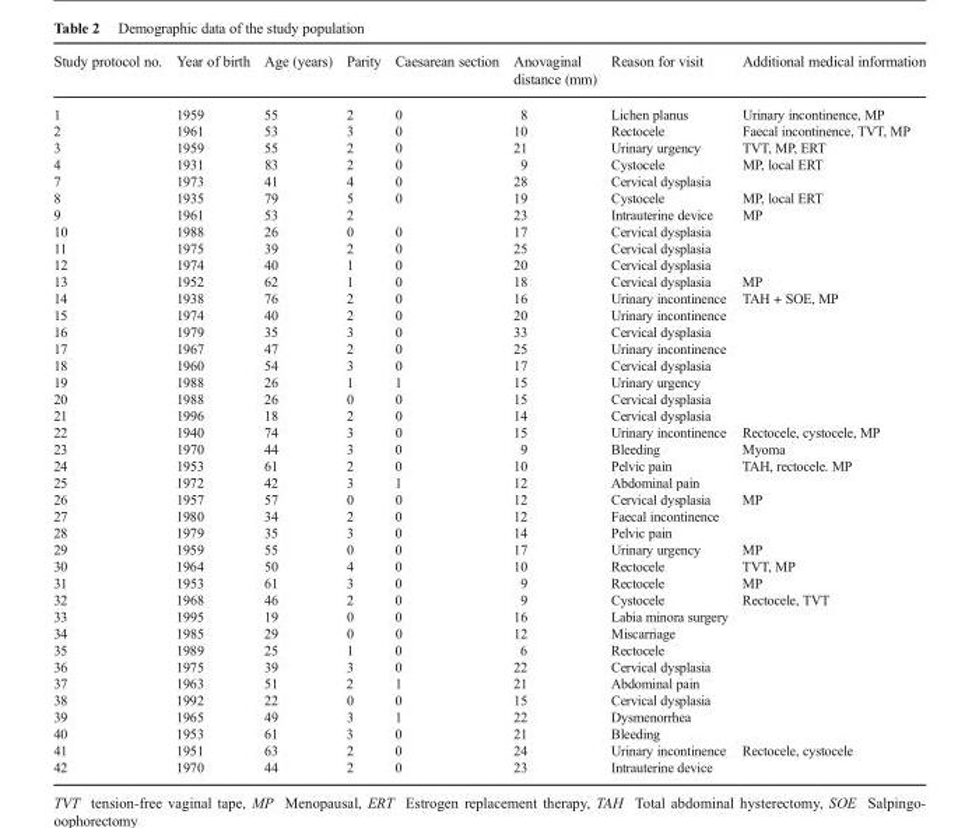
<table><thead><tr><td>Study protocol no.</td><td>Year of birth</td><td>Age (years)</td><td>Parity</td><td>Caesarean section</td><td>Anovaginal distance (mm)</td><td>Reason for visit</td><td>Additional medical information</td></tr></thead><tbody><tr><td>1</td><td>1959</td><td>55</td><td>2</td><td>0</td><td>8</td><td>Lichen planus</td><td>Urinary incontinence, MP</td></tr><tr><td>2</td><td>1961</td><td>53</td><td>3</td><td>0</td><td>10</td><td>Rectocele</td><td>Faecal incontinence, TVT, MP</td></tr><tr><td>3</td><td>1959</td><td>55</td><td>2</td><td>0</td><td>21</td><td>Urinary urgency</td><td>TVT, MP, ERT</td></tr><tr><td>4</td><td>1931</td><td>83</td><td>2</td><td>0</td><td>9</td><td>Cystocele</td><td>MP, local ERT</td></tr><tr><td>7</td><td>1973</td><td>41</td><td>4</td><td>0</td><td>28</td><td>Cervical dysplasia</td><td></td></tr><tr><td>8</td><td>1935</td><td>79</td><td>5</td><td>0</td><td>19</td><td>Cystocele</td><td>MP, local ERT</td></tr><tr><td>9</td><td>1961</td><td>53</td><td>2</td><td></td><td>23</td><td>Intrauterine device</td><td>MP</td></tr><tr><td>10</td><td>1988</td><td>26</td><td>0</td><td>0</td><td>17</td><td>Cervical dysplasia</td><td></td></tr><tr><td>11</td><td>1975</td><td>39</td><td>2</td><td>0</td><td>25</td><td>Cervical dysplasia</td><td></td></tr><tr><td>12</td><td>1974</td><td>40</td><td>1</td><td>0</td><td>20</td><td>Cervical dysplasia</td><td></td></tr><tr><td>13</td><td>1952</td><td>62</td><td>1</td><td>0</td><td>18</td><td>Cervical dysplasia</td><td>MP</td></tr><tr><td>14</td><td>1938</td><td>76</td><td>2</td><td>0</td><td>16</td><td>Urinary incontinence</td><td>TAH + SOE, MP</td></tr><tr><td>15</td><td>1974</td><td>40</td><td>2</td><td>0</td><td>20</td><td>Urinary incontinence</td><td></td></tr><tr><td>16</td><td>1979</td><td>35</td><td>3</td><td>0</td><td>33</td><td>Cervical dysplasia</td><td></td></tr><tr><td>17</td><td>1967</td><td>47</td><td>2</td><td>0</td><td>25</td><td>Urinary incontinence</td><td></td></tr><tr><td>18</td><td>1960</td><td>54</td><td>3</td><td>0</td><td>17</td><td>Cervical dysplasia</td><td></td></tr><tr><td>19</td><td>1988</td><td>26</td><td>1</td><td>1</td><td>15</td><td>Urinary urgency</td><td></td></tr><tr><td>20</td><td>1988</td><td>26</td><td>0</td><td>0</td><td>15</td><td>Cervical dysplasia</td><td></td></tr><tr><td>21</td><td>1996</td><td>18</td><td>2</td><td>0</td><td>14</td><td>Cervical dysplasia</td><td></td></tr><tr><td>22</td><td>1940</td><td>74</td><td>3</td><td>0</td><td>15</td><td>Urinary incontinence</td><td>Rectocele, cystocele, MP</td></tr><tr><td>23</td><td>1970</td><td>44</td><td>3</td><td>0</td><td>9</td><td>Bleeding</td><td>Myoma</td></tr><tr><td>24</td><td>1953</td><td>61</td><td>2</td><td>0</td><td>10</td><td>Pelvic pain</td><td>TAH, rectocele. MP</td></tr><tr><td>25</td><td>1972</td><td>42</td><td>3</td><td>1</td><td>12</td><td>Abdominal pain</td><td></td></tr><tr><td>26</td><td>1957</td><td>57</td><td>0</td><td>0</td><td>12</td><td>Cervical dysplasia</td><td>MP</td></tr><tr><td>27</td><td>1980</td><td>34</td><td>2</td><td>0</td><td>12</td><td>Faecal incontinence</td><td></td></tr><tr><td>28</td><td>1979</td><td>35</td><td>3</td><td>0</td><td>14</td><td>Pelvic pain</td><td></td></tr><tr><td>29</td><td>1959</td><td>55</td><td>0</td><td>0</td><td>17</td><td>Urinary urgency</td><td>MP</td></tr><tr><td>30</td><td>1964</td><td>50</td><td>4</td><td>0</td><td>10</td><td>Rectocele</td><td>TVT, MP</td></tr><tr><td>31</td><td>1953</td><td>61</td><td>3</td><td>0</td><td>9</td><td>Rectocele</td><td>MP</td></tr><tr><td>32</td><td>1968</td><td>46</td><td>2</td><td>0</td><td>9</td><td>Cystocele</td><td>Rectocele, TVT</td></tr><tr><td>33</td><td>1995</td><td>19</td><td>0</td><td>0</td><td>16</td><td>Labia minora surgery</td><td></td></tr><tr><td>34</td><td>1985</td><td>29</td><td>0</td><td>0</td><td>12</td><td>Miscarriage</td><td></td></tr><tr><td>35</td><td>1989</td><td>25</td><td>1</td><td>0</td><td>6</td><td>Rectocele</td><td></td></tr><tr><td>36</td><td>1975</td><td>39</td><td>3</td><td>0</td><td>22</td><td>Cervical dysplasia</td><td></td></tr><tr><td>37</td><td>1963</td><td>51</td><td>2</td><td>1</td><td>21</td><td>Abdominal pain</td><td></td></tr><tr><td>38</td><td>1992</td><td>22</td><td>0</td><td>0</td><td>15</td><td>Cervical dysplasia</td><td></td></tr><tr><td>39</td><td>1965</td><td>49</td><td>3</td><td>1</td><td>22</td><td>Dysmenorrhea</td><td></td></tr><tr><td>40</td><td>1953</td><td>61</td><td>3</td><td>0</td><td>21</td><td>Bleeding</td><td></td></tr><tr><td>41</td><td>1951</td><td>63</td><td>2</td><td>0</td><td>24</td><td>Urinary incontinence</td><td>Rectocele, cystocele</td></tr><tr><td>42</td><td>1970</td><td>44</td><td>2</td><td>0</td><td>23</td><td>Intrauterine device</td><td></td></tr></tbody></table>